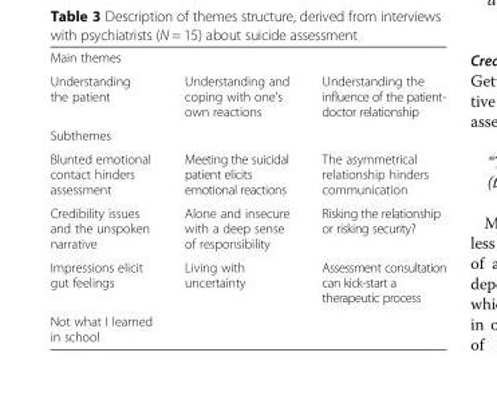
<table><tbody><tr><td colspan="3">Main themes</td></tr><tr><td>Understanding the patient</td><td>Understanding and coping with one’s own reactions</td><td>Understanding the influence of the patient- doctor relationship</td></tr><tr><td colspan="3">Subthemes</td></tr><tr><td>Blunted emotional contact hinders assessment</td><td>Meeting the suicidal patient elicits emotional reactions</td><td>The asymmetrical relationship hinders communication</td></tr><tr><td>Credibility issues and the unspoken narrative</td><td>Alone and insecure with a deep sense of responsibility</td><td>Risking the relationship or risking security?</td></tr><tr><td>Impressions elicit gut feelings</td><td>Living with uncertainty</td><td>Assessment consultation can kick-start a therapeutic process</td></tr><tr><td>Not what I learned in school</td><td></td><td></td></tr></tbody></table>